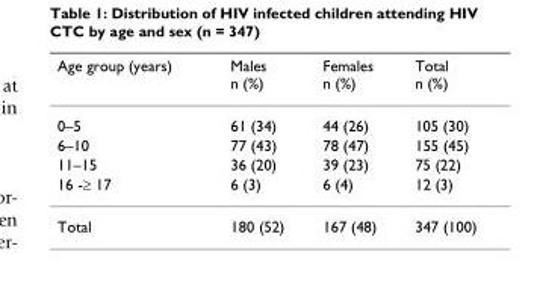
<table><thead><tr><td>Age group (years)</td><td>Males n (%)</td><td>Females n (%)</td><td>Total n (%)</td></tr></thead><tbody><tr><td>0–5</td><td>61 (34)</td><td>44 (26)</td><td>105 (30)</td></tr><tr><td>6–10</td><td>77 (43)</td><td>78 (47)</td><td>155 (45)</td></tr><tr><td>11–15</td><td>36 (20)</td><td>39 (23)</td><td>75 (22)</td></tr><tr><td>16 -≥ 17</td><td>6 (3)</td><td>6 (4)</td><td>12 (3)</td></tr><tr><td>Total</td><td>180 (52)</td><td>167 (48)</td><td>347 (100)</td></tr></tbody></table>